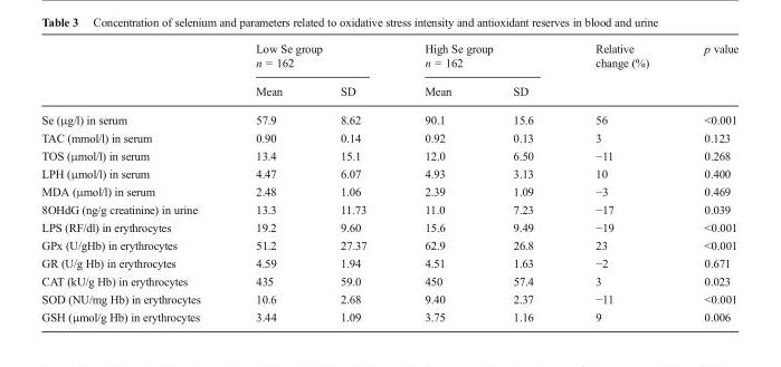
<table><thead><tr><td rowspan="2"></td><td colspan="2">Low Se group n = 162</td><td colspan="2">High Se group n = 162</td><td rowspan="2">Relative change (%)</td><td rowspan="2">p value</td></tr><tr><td>Mean</td><td>SD</td><td>Mean</td><td>SD</td></tr></thead><tbody><tr><td>Se (μg/l) in serum</td><td>57.9</td><td>8.62</td><td>90.1</td><td>15.6</td><td>56</td><td>&lt;0.001</td></tr><tr><td>TAC (mmol/l) in serum</td><td>0.90</td><td>0.14</td><td>0.92</td><td>0.13</td><td>3</td><td>0.123</td></tr><tr><td>TOS (μmol/l) in serum</td><td>13.4</td><td>15.1</td><td>12.0</td><td>6.50</td><td>−11</td><td>0.268</td></tr><tr><td>LPH (μmol/l) in serum</td><td>4.47</td><td>6.07</td><td>4.93</td><td>3.13</td><td>10</td><td>0.400</td></tr><tr><td>MDA (μmol/l) in serum</td><td>2.48</td><td>1.06</td><td>2.39</td><td>1.09</td><td>−3</td><td>0.469</td></tr><tr><td>8OHdG (ng/g creatinine) in urine</td><td>13.3</td><td>11.73</td><td>11.0</td><td>7.23</td><td>−17</td><td>0.039</td></tr><tr><td>LPS (RF/dl) in erythrocytes</td><td>19.2</td><td>9.60</td><td>15.6</td><td>9.49</td><td>−19</td><td>&lt;0.001</td></tr><tr><td>GPx (U/gHb) in erythrocytes</td><td>51.2</td><td>27.37</td><td>62.9</td><td>26.8</td><td>23</td><td>&lt;0.001</td></tr><tr><td>GR (U/g Hb) in erythrocytes</td><td>4.59</td><td>1.94</td><td>4.51</td><td>1.63</td><td>−2</td><td>0.671</td></tr><tr><td>CAT (kU/g Hb) in erythrocytes</td><td>435</td><td>59.0</td><td>450</td><td>57.4</td><td>3</td><td>0.023</td></tr><tr><td>SOD (NU/mg Hb) in erythrocytes</td><td>10.6</td><td>2.68</td><td>9.40</td><td>2.37</td><td>−11</td><td>&lt;0.001</td></tr><tr><td>GSH (μmol/g Hb) in erythrocytes</td><td>3.44</td><td>1.09</td><td>3.75</td><td>1.16</td><td>9</td><td>0.006</td></tr></tbody></table>